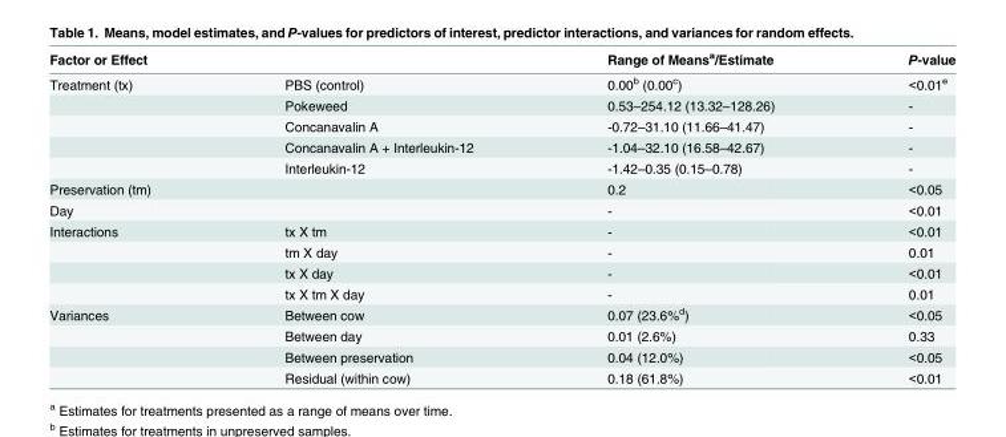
<table><thead><tr><td colspan="2">Factor or Effect</td><td rowspan="2">Range of Means<sup>a</sup>/Estimate 0.00<sup>b</sup> (0.00<sup>c</sup>)</td><td rowspan="2">P-value &lt;0.01<sup>e</sup></td></tr><tr><td>Treatment (tx)</td><td>PBS (control)</td></tr></thead><tbody><tr><td></td><td>Pokeweed</td><td>0.53–254.12 (13.32–128.26)</td><td>-</td></tr><tr><td></td><td>Concanavalin A</td><td>-0.72–31.10 (11.66–41.47)</td><td>-</td></tr><tr><td></td><td>Concanavalin A + Interleukin-12</td><td>-1.04–32.10 (16.58–42.67)</td><td>-</td></tr><tr><td></td><td>Interleukin-12</td><td>-1.42–0.35 (0.15–0.78)</td><td>-</td></tr><tr><td>Preservation (tm)</td><td></td><td>0.2</td><td>&lt;0.05</td></tr><tr><td>Day</td><td></td><td>-</td><td>&lt;0.01</td></tr><tr><td rowspan="4">Interactions</td><td>tx X tm</td><td>-</td><td>&lt;0.01</td></tr><tr><td>tm X day</td><td>-</td><td>0.01</td></tr><tr><td>tx X day</td><td>-</td><td>&lt;0.01</td></tr><tr><td>tx X tm X day</td><td>-</td><td>0.01</td></tr><tr><td rowspan="4">Variances</td><td>Between cow</td><td>0.07 (23.6%<sup>d</sup>)</td><td>&lt;0.05</td></tr><tr><td>Between day</td><td>0.01 (2.6%)</td><td>0.33</td></tr><tr><td>Between preservation</td><td>0.04 (12.0%)</td><td>&lt;0.05</td></tr><tr><td>Residual (within cow)</td><td>0.18 (61.8%)</td><td>&lt;0.01</td></tr></tbody></table>